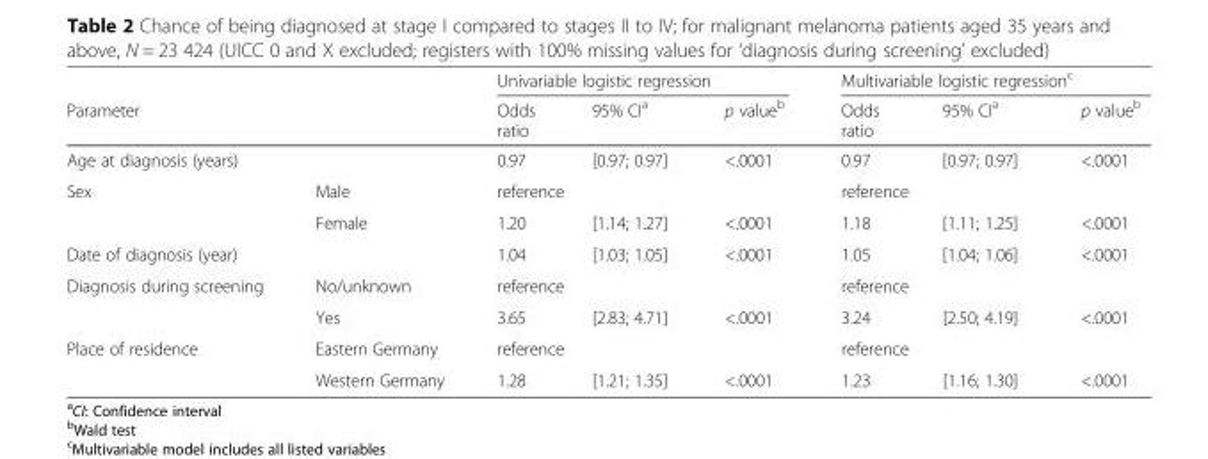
<table><thead><tr><td></td><td></td><td colspan="3">Univariable logistic regression</td><td colspan="3">Multivariable logistic regression<sup>c</sup></td></tr><tr><td colspan="2">Parameter</td><td>Odds ratio</td><td>95% CI<sup>a</sup></td><td>p value<sup>b</sup></td><td>Odds ratio</td><td>95% CI<sup>a</sup></td><td>p value<sup>b</sup></td></tr></thead><tbody><tr><td colspan="2">Age at diagnosis (years)</td><td>0.97</td><td>[0.97; 0.97]</td><td>&lt;.0001</td><td>0.97</td><td>[0.97; 0.97]</td><td>&lt;.0001</td></tr><tr><td rowspan="2">Sex</td><td>Male</td><td colspan="3">reference</td><td colspan="3">reference</td></tr><tr><td>Female</td><td>1.20</td><td>[1.14; 1.27]</td><td>&lt;.0001</td><td>1.18</td><td>[1.11; 1.25]</td><td>&lt;.0001</td></tr><tr><td colspan="2">Date of diagnosis (year)</td><td>1.04</td><td>[1.03; 1.05]</td><td>&lt;.0001</td><td>1.05</td><td>[1.04; 1.06]</td><td>&lt;.0001</td></tr><tr><td rowspan="2">Diagnosis during screening</td><td>No/unknown</td><td colspan="3">reference</td><td colspan="3">reference</td></tr><tr><td>Yes</td><td>3.65</td><td>[2.83; 4.71]</td><td>&lt;.0001</td><td>3.24</td><td>[2.50; 4.19]</td><td>&lt;.0001</td></tr><tr><td rowspan="2">Place of residence</td><td>Eastern Germany</td><td colspan="3">reference</td><td colspan="3">reference</td></tr><tr><td>Western Germany</td><td>1.28</td><td>[1.21; 1.35]</td><td>&lt;.0001</td><td>1.23</td><td>[1.16; 1.30]</td><td>&lt;.0001</td></tr></tbody></table>